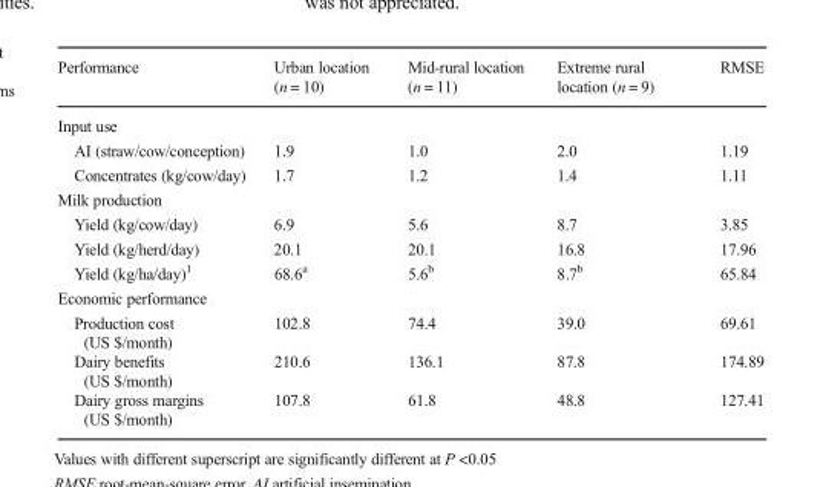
<table><thead><tr><td>Performance</td><td>Urban location (n = 10)</td><td>Mid-rural location (n = 11)</td><td>Extreme rural location (n = 9)</td><td>RMSE</td></tr></thead><tbody><tr><td colspan="5">Input use</td></tr><tr><td>AI (straw/cow/conception)</td><td>1.9</td><td>1.0</td><td>2.0</td><td>1.19</td></tr><tr><td>Concentrates (kg/cow/day)</td><td>1.7</td><td>1.2</td><td>1.4</td><td>1.11</td></tr><tr><td colspan="5">Milk production</td></tr><tr><td>Yield (kg/cow/day)</td><td>6.9</td><td>5.6</td><td>8.7</td><td>3.85</td></tr><tr><td>Yield (kg/herd/day)</td><td>20.1</td><td>20.1</td><td>16.8</td><td>17.96</td></tr><tr><td>Yield (kg/ha/day)<sup>1</sup></td><td>68.6<sup>a</sup></td><td>5.6<sup>b</sup></td><td>8.7<sup>b</sup></td><td>65.84</td></tr><tr><td colspan="5">Economic performance</td></tr><tr><td>Production cost (US $/month)</td><td>102.8</td><td>74.4</td><td>39.0</td><td>69.61</td></tr><tr><td>Dairy benefits (US $/month)</td><td>210.6</td><td>136.1</td><td>87.8</td><td>174.89</td></tr><tr><td>Dairy gross margins (US $/month)</td><td>107.8</td><td>61.8</td><td>48.8</td><td>127.41</td></tr></tbody></table>